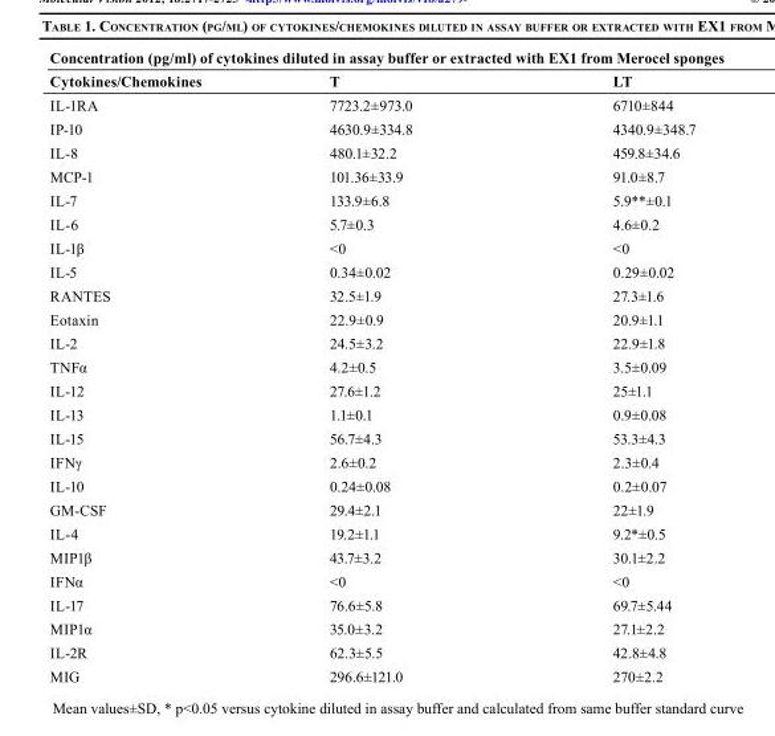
<table><thead><tr><td colspan="3">Concentration (pg/ml) of cytokines diluted in assay buffer or extracted with EX1 from Merocel sponges</td></tr><tr><td>Cytokines/Chemokines</td><td>T</td><td>LT</td></tr></thead><tbody><tr><td>IL-1RA</td><td>7723.2±973.0</td><td>6710±844</td></tr><tr><td>IP-10</td><td>4630.9±334.8</td><td>4340.9±348.7</td></tr><tr><td>IL-8</td><td>480.1±32.2</td><td>459.8±34.6</td></tr><tr><td>MCP-1</td><td>101.36±33.9</td><td>91.0±8.7</td></tr><tr><td>IL-7</td><td>133.9±6.8</td><td>5.9**±0.1</td></tr><tr><td>IL-6</td><td>5.7±0.3</td><td>4.6±0.2</td></tr><tr><td>IL-1β</td><td>&lt;0</td><td>&lt;0</td></tr><tr><td>IL-5</td><td>0.34±0.02</td><td>0.29±0.02</td></tr><tr><td>RANTES</td><td>32.5±1.9</td><td>27.3±1.6</td></tr><tr><td>Eotaxin</td><td>22.9±0.9</td><td>20.9±1.1</td></tr><tr><td>IL-2</td><td>24.5±3.2</td><td>22.9±1.8</td></tr><tr><td>TNFα</td><td>4.2±0.5</td><td>3.5±0.09</td></tr><tr><td>IL-12</td><td>27.6±1.2</td><td>25±1.1</td></tr><tr><td>IL-13</td><td>1.1±0.1</td><td>0.9±0.08</td></tr><tr><td>IL-15</td><td>56.7±4.3</td><td>53.3±4.3</td></tr><tr><td>IFNγ</td><td>2.6±0.2</td><td>2.3±0.4</td></tr><tr><td>IL-10</td><td>0.24±0.08</td><td>0.2±0.07</td></tr><tr><td>GM-CSF</td><td>29.4±2.1</td><td>22±1.9</td></tr><tr><td>IL-4</td><td>19.2±1.1</td><td>9.2*±0.5</td></tr><tr><td>MIP1β</td><td>43.7±3.2</td><td>30.1±2.2</td></tr><tr><td>IFNα</td><td>&lt;0</td><td>&lt;0</td></tr><tr><td>IL-17</td><td>76.6±5.8</td><td>69.7±5.44</td></tr><tr><td>MIP1α</td><td>35.0±3.2</td><td>27.1±2.2</td></tr><tr><td>IL-2R</td><td>62.3±5.5</td><td>42.8±4.8</td></tr><tr><td>MIG</td><td>296.6±121.0</td><td>270±2.2</td></tr></tbody></table>